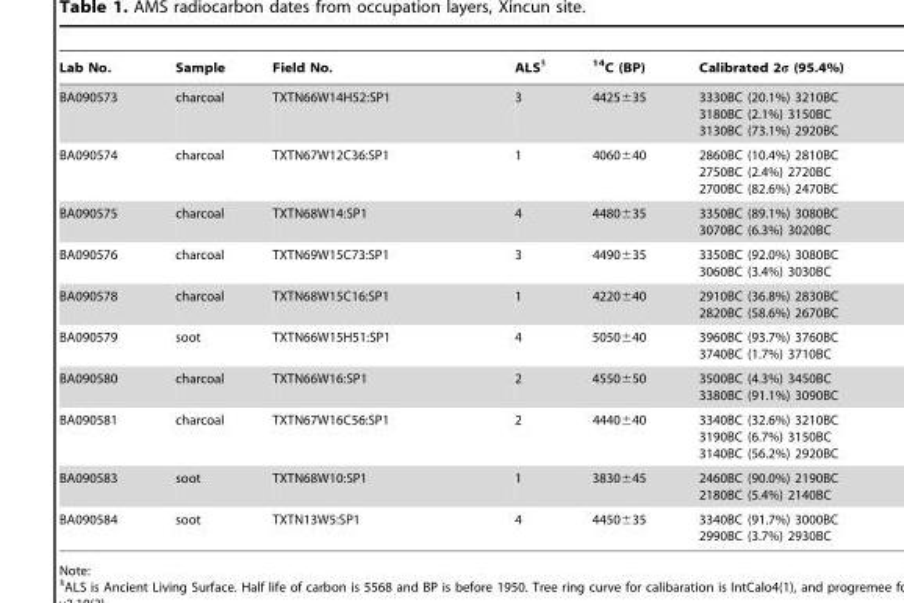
<table><thead><tr><td>Lab No.</td><td>Sample</td><td>Field No.</td><td>ALS§</td><td><sup>14</sup>C (BP)</td><td>Calibrated 2σ (95.4%)</td></tr></thead><tbody><tr><td>BA090573</td><td>charcoal</td><td>TXTN66W14H52:SP1</td><td>3</td><td>4425±35</td><td>3330BC (20.1%) 3210BC 3180BC (2.1%) 3150BC 3130BC (73.1%) 2920BC</td></tr><tr><td>BA090574</td><td>charcoal</td><td>TXTN67W12C36:SP1</td><td>1</td><td>4060±40</td><td>2860BC (10.4%) 2810BC 2750BC (2.4%) 2720BC 2700BC (82.6%) 2470BC</td></tr><tr><td>BA090575</td><td>charcoal</td><td>TXTN68W14:SP1</td><td>4</td><td>4480±35</td><td>3350BC (89.1%) 3080BC 3070BC (6.3%) 3020BC</td></tr><tr><td>BA090576</td><td>charcoal</td><td>TXTN69W15C73:SP1</td><td>3</td><td>4490±35</td><td>3350BC (92.0%) 3080BC 3060BC (3.4%) 3030BC</td></tr><tr><td>BA090578</td><td>charcoal</td><td>TXTN68W15C16:SP1</td><td>1</td><td>4220±40</td><td>2910BC (36.8%) 2830BC 2820BC (58.6%) 2670BC</td></tr><tr><td>BA090579</td><td>soot</td><td>TXTN66W15H51:SP1</td><td>4</td><td>5050±40</td><td>3960BC (93.7%) 3760BC 3740BC (1.7%) 3710BC</td></tr><tr><td>BA090580</td><td>charcoal</td><td>TXTN66W16:SP1</td><td>2</td><td>4550±50</td><td>3500BC (4.3%) 3450BC 3380BC (91.1%) 3090BC</td></tr><tr><td>BA090581</td><td>charcoal</td><td>TXTN67W16C56:SP1</td><td>2</td><td>4440±40</td><td>3340BC (32.6%) 3210BC 3190BC (6.7%) 3150BC 3140BC (56.2%) 2920BC</td></tr><tr><td>BA090583</td><td>soot</td><td>TXTN68W10:SP1</td><td>1</td><td>3830±45</td><td>2460BC (90.0%) 2190BC 2180BC (5.4%) 2140BC</td></tr><tr><td>BA090584</td><td>soot</td><td>TXTN13W5:SP1</td><td>4</td><td>4450±35</td><td>3340BC (91.7%) 3000BC 2990BC (3.7%) 2930BC</td></tr></tbody></table>